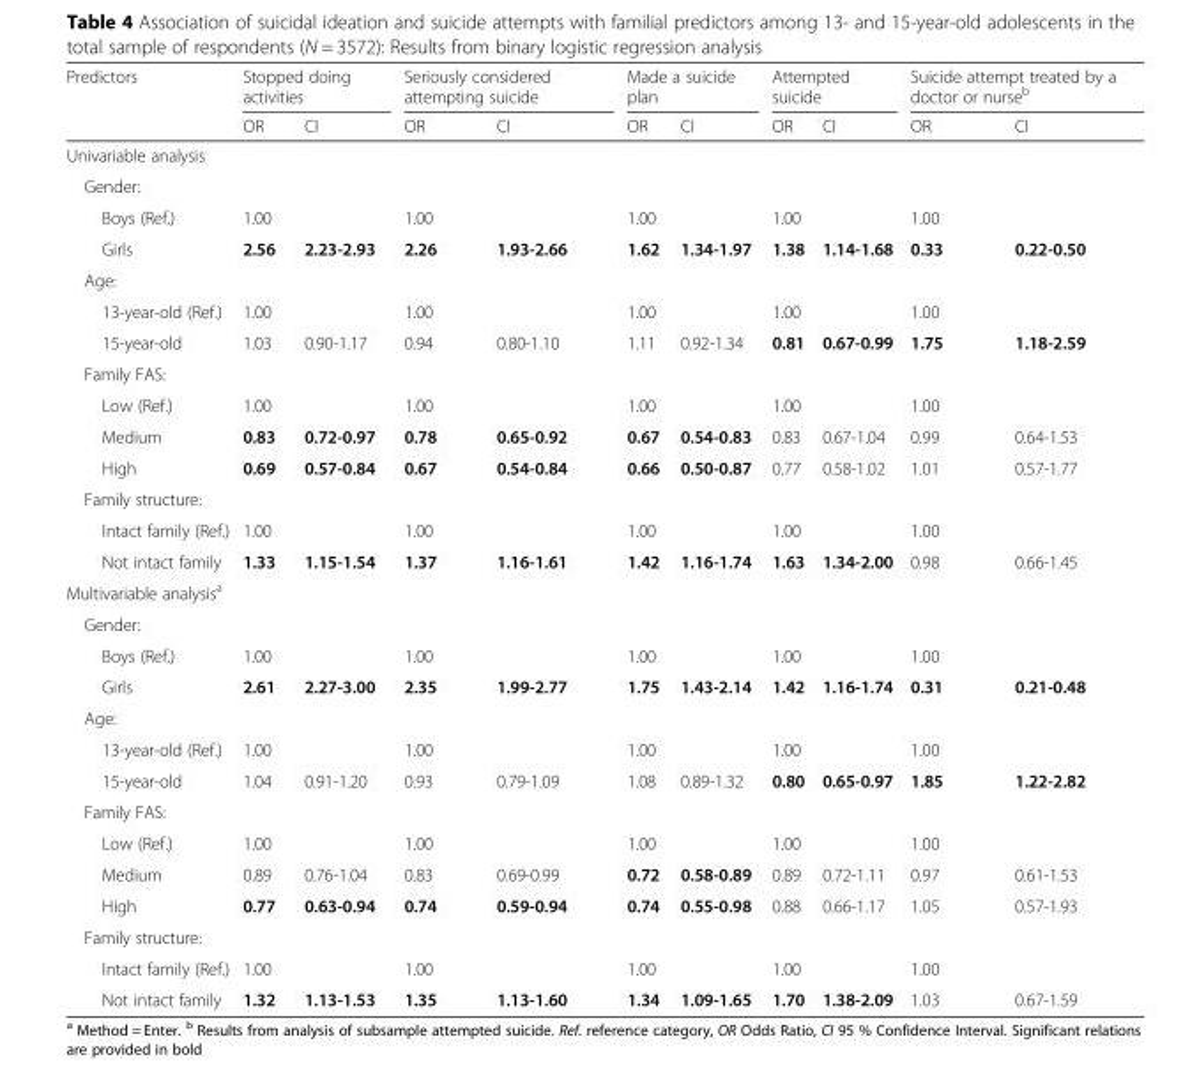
<table><thead><tr><td rowspan="2">Predictors</td><td colspan="2">Stopped doing activities</td><td colspan="2">Seriously considered attempting suicide</td><td colspan="2">Made a suicide plan</td><td colspan="2">Attempted suicide</td><td colspan="2">Suicide attempt treated by a doctor or nurse<sup>b</sup></td></tr><tr><td>OR</td><td>CI</td><td>OR</td><td>CI</td><td>OR</td><td>CI</td><td>OR</td><td>CI</td><td>OR</td><td>CI</td></tr></thead><tbody><tr><td colspan="11">Univariable analysis</td></tr><tr><td colspan="11">Gender:</td></tr><tr><td>Boys (Ref.)</td><td>1.00</td><td></td><td>1.00</td><td></td><td>1.00</td><td></td><td>1.00</td><td></td><td>1.00</td><td></td></tr><tr><td>Girls</td><td>2.56</td><td>2.23-2.93</td><td>2.26</td><td>1.93-2.66</td><td>1.62</td><td>1.34-1.97</td><td>1.38</td><td>1.14-1.68</td><td>0.33</td><td>0.22-0.50</td></tr><tr><td colspan="11">Age:</td></tr><tr><td>13-year-old (Ref.)</td><td>1.00</td><td></td><td>1.00</td><td></td><td>1.00</td><td></td><td>1.00</td><td></td><td>1.00</td><td></td></tr><tr><td>15-year-old</td><td>1.03</td><td>0.90-1.17</td><td>0.94</td><td>0.80-1.10</td><td>1.11</td><td>0.92-1.34</td><td>0.81</td><td>0.67-0.99</td><td>1.75</td><td>1.18-2.59</td></tr><tr><td colspan="11">Family FAS:</td></tr><tr><td>Low (Ref.)</td><td>1.00</td><td></td><td>1.00</td><td></td><td>1.00</td><td></td><td>1.00</td><td></td><td>1.00</td><td></td></tr><tr><td>Medium</td><td>0.83</td><td>0.72-0.97</td><td>0.78</td><td>0.65-0.92</td><td>0.67</td><td>0.54-0.83</td><td>0.83</td><td>0.67-1.04</td><td>0.99</td><td>0.64-1.53</td></tr><tr><td>High</td><td>0.69</td><td>0.57-0.84</td><td>0.67</td><td>0.54-0.84</td><td>0.66</td><td>0.50-0.87</td><td>0.77</td><td>0.58-1.02</td><td>1.01</td><td>0.57-1.77</td></tr><tr><td colspan="11">Family structure:</td></tr><tr><td>Intact family (Ref.)</td><td>1.00</td><td></td><td>1.00</td><td></td><td>1.00</td><td></td><td>1.00</td><td></td><td>1.00</td><td></td></tr><tr><td>Not intact family</td><td>1.33</td><td>1.15-1.54</td><td>1.37</td><td>1.16-1.61</td><td>1.42</td><td>1.16-1.74</td><td>1.63</td><td>1.34-2.00</td><td>0.98</td><td>0.66-1.45</td></tr><tr><td colspan="11">Multivariable analysis<sup>a</sup></td></tr><tr><td colspan="11">Gender:</td></tr><tr><td>Boys (Ref.)</td><td>1.00</td><td></td><td>1.00</td><td></td><td>1.00</td><td></td><td>1.00</td><td></td><td>1.00</td><td></td></tr><tr><td>Girls</td><td>2.61</td><td>2.27-3.00</td><td>2.35</td><td>1.99-2.77</td><td>1.75</td><td>1.43-2.14</td><td>1.42</td><td>1.16-1.74</td><td>0.31</td><td>0.21-0.48</td></tr><tr><td colspan="11">Age:</td></tr><tr><td>13-year-old (Ref.)</td><td>1.00</td><td></td><td>1.00</td><td></td><td>1.00</td><td></td><td>1.00</td><td></td><td>1.00</td><td></td></tr><tr><td>15-year-old</td><td>1.04</td><td>0.91-1.20</td><td>0.93</td><td>0.79-1.09</td><td>1.08</td><td>0.89-1.32</td><td>0.80</td><td>0.65-0.97</td><td>1.85</td><td>1.22-2.82</td></tr><tr><td colspan="11">Family FAS:</td></tr><tr><td>Low (Ref.)</td><td>1.00</td><td></td><td>1.00</td><td></td><td>1.00</td><td></td><td>1.00</td><td></td><td>1.00</td><td></td></tr><tr><td>Medium</td><td>0.89</td><td>0.76-1.04</td><td>0.83</td><td>0.69-0.99</td><td>0.72</td><td>0.58-0.89</td><td>0.89</td><td>0.72-1.11</td><td>0.97</td><td>0.61-1.53</td></tr><tr><td>High</td><td>0.77</td><td>0.63-0.94</td><td>0.74</td><td>0.59-0.94</td><td>0.74</td><td>0.55-0.98</td><td>0.88</td><td>0.66-1.17</td><td>1.05</td><td>0.57-1.93</td></tr><tr><td colspan="11">Family structure:</td></tr><tr><td>Intact family (Ref.)</td><td>1.00</td><td></td><td>1.00</td><td></td><td>1.00</td><td></td><td>1.00</td><td></td><td>1.00</td><td></td></tr><tr><td>Not intact family</td><td>1.32</td><td>1.13-1.53</td><td>1.35</td><td>1.13-1.60</td><td>1.34</td><td>1.09-1.65</td><td>1.70</td><td>1.38-2.09</td><td>1.03</td><td>0.67-1.59</td></tr></tbody></table>